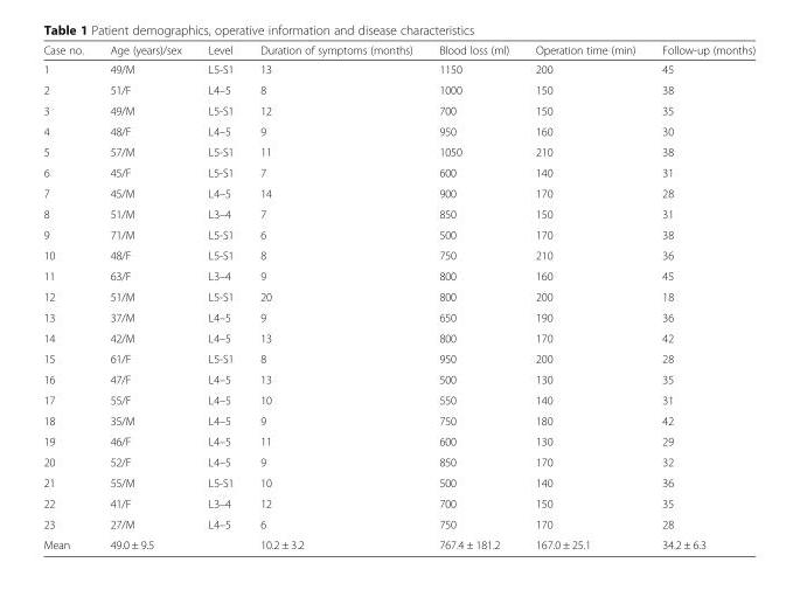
<table><thead><tr><td>Case no.</td><td>Age (years)/sex</td><td>Level</td><td>Duration of symptoms (months)</td><td>Blood loss (ml)</td><td>Operation time (min)</td><td>Follow-up (months)</td></tr></thead><tbody><tr><td>1</td><td>49/M</td><td>L5-S1</td><td>13</td><td>1150</td><td>200</td><td>45</td></tr><tr><td>2</td><td>51/F</td><td>L4–5</td><td>8</td><td>1000</td><td>150</td><td>38</td></tr><tr><td>3</td><td>49/M</td><td>L5-S1</td><td>12</td><td>700</td><td>150</td><td>35</td></tr><tr><td>4</td><td>48/F</td><td>L4–5</td><td>9</td><td>950</td><td>160</td><td>30</td></tr><tr><td>5</td><td>57/M</td><td>L5-S1</td><td>11</td><td>1050</td><td>210</td><td>38</td></tr><tr><td>6</td><td>45/F</td><td>L5-S1</td><td>7</td><td>600</td><td>140</td><td>31</td></tr><tr><td>7</td><td>45/M</td><td>L4–5</td><td>14</td><td>900</td><td>170</td><td>28</td></tr><tr><td>8</td><td>51/M</td><td>L3–4</td><td>7</td><td>850</td><td>150</td><td>31</td></tr><tr><td>9</td><td>71/M</td><td>L5-S1</td><td>6</td><td>500</td><td>170</td><td>38</td></tr><tr><td>10</td><td>48/F</td><td>L5-S1</td><td>8</td><td>750</td><td>210</td><td>36</td></tr><tr><td>11</td><td>63/F</td><td>L3–4</td><td>9</td><td>800</td><td>160</td><td>45</td></tr><tr><td>12</td><td>51/M</td><td>L5-S1</td><td>20</td><td>800</td><td>200</td><td>18</td></tr><tr><td>13</td><td>37/M</td><td>L4–5</td><td>9</td><td>650</td><td>190</td><td>36</td></tr><tr><td>14</td><td>42/M</td><td>L4–5</td><td>13</td><td>800</td><td>170</td><td>42</td></tr><tr><td>15</td><td>61/F</td><td>L5-S1</td><td>8</td><td>950</td><td>200</td><td>28</td></tr><tr><td>16</td><td>47/F</td><td>L4–5</td><td>13</td><td>500</td><td>130</td><td>35</td></tr><tr><td>17</td><td>55/F</td><td>L4–5</td><td>10</td><td>550</td><td>140</td><td>31</td></tr><tr><td>18</td><td>35/M</td><td>L4–5</td><td>9</td><td>750</td><td>180</td><td>42</td></tr><tr><td>19</td><td>46/F</td><td>L4–5</td><td>11</td><td>600</td><td>130</td><td>29</td></tr><tr><td>20</td><td>52/F</td><td>L4–5</td><td>9</td><td>850</td><td>170</td><td>32</td></tr><tr><td>21</td><td>55/M</td><td>L5-S1</td><td>10</td><td>500</td><td>140</td><td>36</td></tr><tr><td>22</td><td>41/F</td><td>L3–4</td><td>12</td><td>700</td><td>150</td><td>35</td></tr><tr><td>23</td><td>27/M</td><td>L4–5</td><td>6</td><td>750</td><td>170</td><td>28</td></tr><tr><td>Mean</td><td>49.0 ± 9.5</td><td></td><td>10.2 ± 3.2</td><td>767.4 ± 181.2</td><td>167.0 ± 25.1</td><td>34.2 ± 6.3</td></tr></tbody></table>